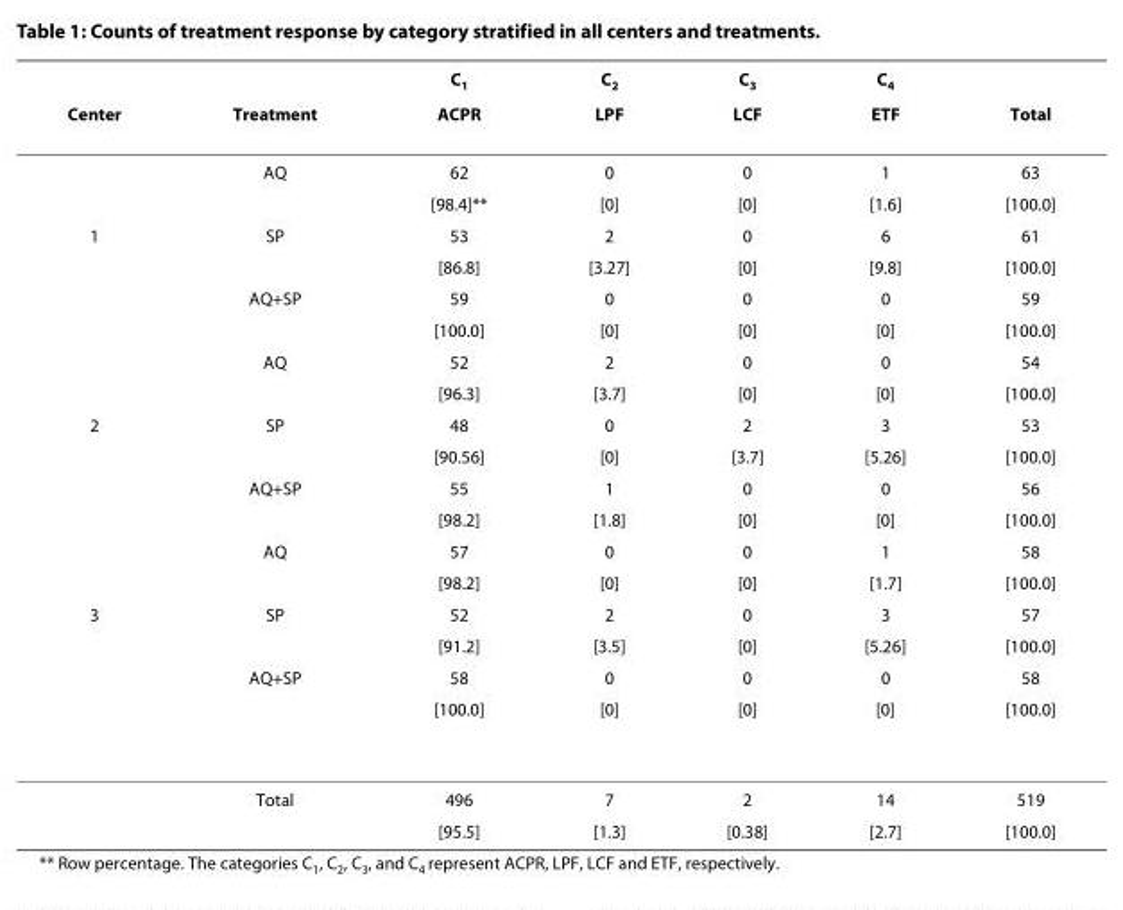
<table><thead><tr><td rowspan="2">Center</td><td rowspan="2">Treatment</td><td rowspan="2">C<sub>1</sub> ACPR</td><td rowspan="2">C<sub>2</sub> LPF</td><td rowspan="2">C<sub>3</sub> LCF</td><td rowspan="2">C<sub>4</sub> ETF</td><td rowspan="2">Total</td></tr><tr></tr></thead><tbody><tr><td></td><td>AQ</td><td>62</td><td>0</td><td>0</td><td>1</td><td>63</td></tr><tr><td></td><td></td><td>[98.4]**</td><td>[0]</td><td>[0]</td><td>[1.6]</td><td>[100.0]</td></tr><tr><td rowspan="6">1</td><td>SP</td><td>53</td><td>2</td><td>0</td><td>6</td><td>61</td></tr><tr><td></td><td>[86.8]</td><td>[3.27]</td><td>[0]</td><td>[9.8]</td><td>[100.0]</td></tr><tr><td>AQ+SP</td><td>59</td><td>0</td><td>0</td><td>0</td><td>59</td></tr><tr><td></td><td>[100.0]</td><td>[0]</td><td>[0]</td><td>[0]</td><td>[100.0]</td></tr><tr><td>AQ</td><td>52</td><td>2</td><td>0</td><td>0</td><td>54</td></tr><tr><td></td><td>[96.3]</td><td>[3.7]</td><td>[0]</td><td>[0]</td><td>[100.0]</td></tr><tr><td rowspan="6">2</td><td>SP</td><td>48</td><td>0</td><td>2</td><td>3</td><td>53</td></tr><tr><td></td><td>[90.56]</td><td>[0]</td><td>[3.7]</td><td>[5.26]</td><td>[100.0]</td></tr><tr><td>AQ+SP</td><td>55</td><td>1</td><td>0</td><td>0</td><td>56</td></tr><tr><td></td><td>[98.2]</td><td>[1.8]</td><td>[0]</td><td>[0]</td><td>[100.0]</td></tr><tr><td>AQ</td><td>57</td><td>0</td><td>0</td><td>1</td><td>58</td></tr><tr><td></td><td>[98.2]</td><td>[0]</td><td>[0]</td><td>[1.7]</td><td>[100.0]</td></tr><tr><td rowspan="6">3</td><td>SP</td><td>52</td><td>2</td><td>0</td><td>3</td><td>57</td></tr><tr><td></td><td>[91.2]</td><td>[3.5]</td><td>[0]</td><td>[5.26]</td><td>[100.0]</td></tr><tr><td>AQ+SP</td><td>58</td><td>0</td><td>0</td><td>0</td><td>58</td></tr><tr><td></td><td>[100.0]</td><td>[0]</td><td>[0]</td><td>[0]</td><td>[100.0]</td></tr><tr><td>Total</td><td>496</td><td>7</td><td>2</td><td>14</td><td>519</td></tr><tr><td></td><td>[95.5]</td><td>[1.3]</td><td>[0.38]</td><td>[2.7]</td><td>[100.0]</td></tr></tbody></table>